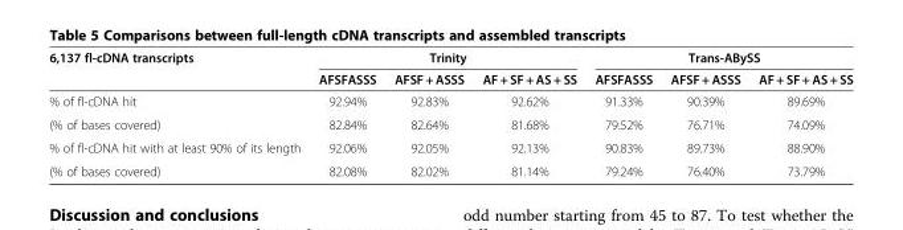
<table><thead><tr><td rowspan="2">6,137 fl-cDNA transcripts</td><td colspan="3">Trinity</td><td colspan="3">Trans-ABySS</td></tr><tr><td>AFSFASSS</td><td>AFSF + ASSS</td><td>AF + SF + AS + SS</td><td>AFSFASSS</td><td>AFSF + ASSS</td><td>AF + SF + AS + SS</td></tr></thead><tbody><tr><td>% of fl-cDNA hit</td><td>92.94%</td><td>92.83%</td><td>92.62%</td><td>91.33%</td><td>90.39%</td><td>89.69%</td></tr><tr><td>(% of bases covered)</td><td>82.84%</td><td>82.64%</td><td>81.68%</td><td>79.52%</td><td>76.71%</td><td>74.09%</td></tr><tr><td>% of fl-cDNA hit with at least 90% of its length</td><td>92.06%</td><td>92.05%</td><td>92.13%</td><td>90.83%</td><td>89.73%</td><td>88.90%</td></tr><tr><td>(% of bases covered)</td><td>82.08%</td><td>82.02%</td><td>81.14%</td><td>79.24%</td><td>76.40%</td><td>73.79%</td></tr></tbody></table>